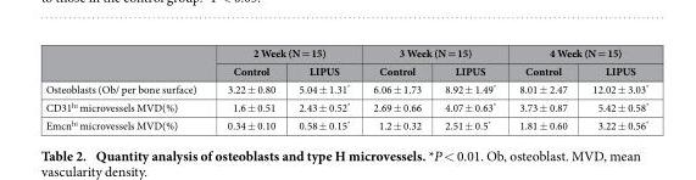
<table><thead><tr><td rowspan="2"></td><td colspan="2">2 Week (N = 15)</td><td colspan="2">3 Week (N = 15)</td><td colspan="2">4 Week (N = 15)</td></tr><tr><td>Control</td><td>LIPUS</td><td>Control</td><td>LIPUS</td><td>Control</td><td>LIPUS</td></tr></thead><tbody><tr><td>Osteoblasts (Ob/ per bone surface)</td><td>3.22 ± 0.80</td><td>5.04 ± 1.31*</td><td>6.06 ± 1.73</td><td>8.92 ± 1.49*</td><td>8.01 ± 2.47</td><td>12.02 ± 3.03*</td></tr><tr><td>CD31<sup>hi</sup> microvessels MVD(%)</td><td>1.6 ± 0.51</td><td>2.43 ± 0.52*</td><td>2.69 ± 0.66</td><td>4.07 ± 0.63*</td><td>3.73 ± 0.87</td><td>5.42 ± 0.58*</td></tr><tr><td>Emcn<sup>hi</sup> microvessels MVD(%)</td><td>0.34 ± 0.10</td><td>0.58 ± 0.15*</td><td>1.2 ± 0.32</td><td>2.51 ± 0.5*</td><td>1.81 ± 0.60</td><td>3.22 ± 0.56*</td></tr></tbody></table>